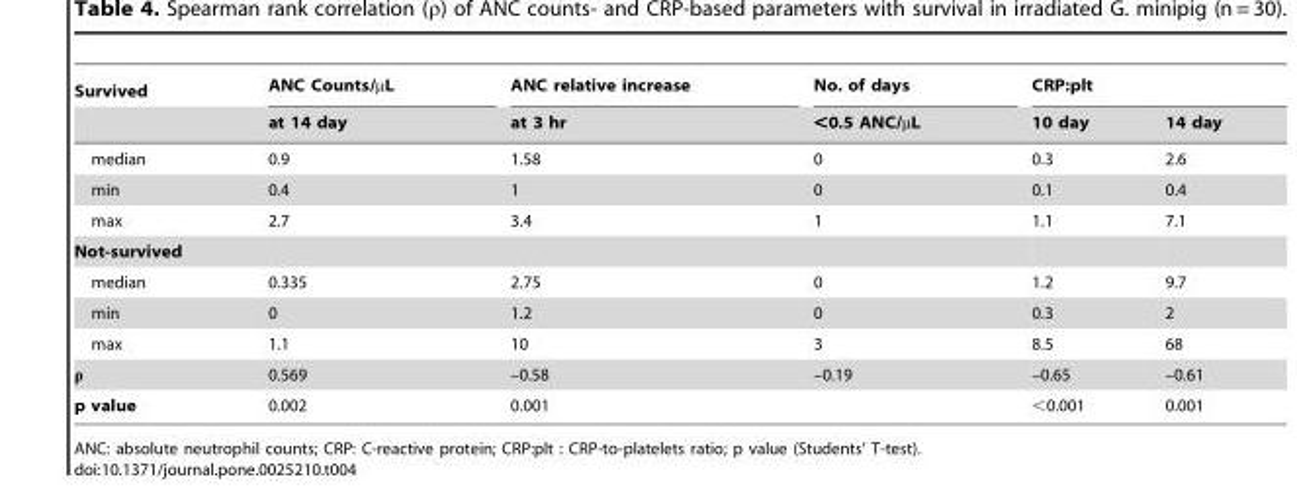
<table><thead><tr><td rowspan="2">Survived</td><td rowspan="2">ANC Counts/µL at 14 day</td><td rowspan="2">ANC relative increase at 3 hr</td><td rowspan="2">No. of days &lt;0.5 ANC/µL</td><td colspan="2">CRP:plt</td></tr><tr><td>10 day</td><td>14 day</td></tr></thead><tbody><tr><td>median</td><td>0.9</td><td>1.58</td><td>0</td><td>0.3</td><td>2.6</td></tr><tr><td>min</td><td>0.4</td><td>1</td><td>0</td><td>0.1</td><td>0.4</td></tr><tr><td>max</td><td>2.7</td><td>3.4</td><td>1</td><td>1.1</td><td>7.1</td></tr><tr><td colspan="6">Not-survived</td></tr><tr><td>median</td><td>0.335</td><td>2.75</td><td>0</td><td>1.2</td><td>9.7</td></tr><tr><td>min</td><td>0</td><td>1.2</td><td>0</td><td>0.3</td><td>2</td></tr><tr><td>max</td><td>1.1</td><td>10</td><td>3</td><td>8.5</td><td>68</td></tr><tr><td>ρ</td><td>0.569</td><td>–0.58</td><td>–0.19</td><td>–0.65</td><td>–0.61</td></tr><tr><td>p value</td><td>0.002</td><td>0.001</td><td></td><td>&lt;0.001</td><td>0.001</td></tr></tbody></table>